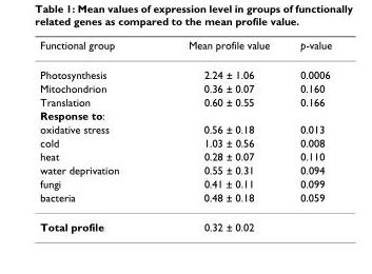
<table><thead><tr><td>Functional group</td><td>Mean profile value</td><td>p-value</td></tr></thead><tbody><tr><td>Photosynthesis</td><td>2.24 ± 1.06</td><td>0.0006</td></tr><tr><td>Mitochondrion</td><td>0.36 ± 0.07</td><td>0.160</td></tr><tr><td>Translation</td><td>0.60 ± 0.55</td><td>0.166</td></tr><tr><td colspan="3">Response to:</td></tr><tr><td>oxidative stress</td><td>0.56 ± 0.18</td><td>0.013</td></tr><tr><td>cold</td><td>1.03 ± 0.56</td><td>0.008</td></tr><tr><td>heat</td><td>0.28 ± 0.07</td><td>0.110</td></tr><tr><td>water deprivation</td><td>0.55 ± 0.31</td><td>0.094</td></tr><tr><td>fungi</td><td>0.41 ± 0.11</td><td>0.099</td></tr><tr><td>bacteria</td><td>0.48 ± 0.18</td><td>0.059</td></tr><tr><td>Total profile</td><td>0.32 ± 0.02</td><td></td></tr></tbody></table>